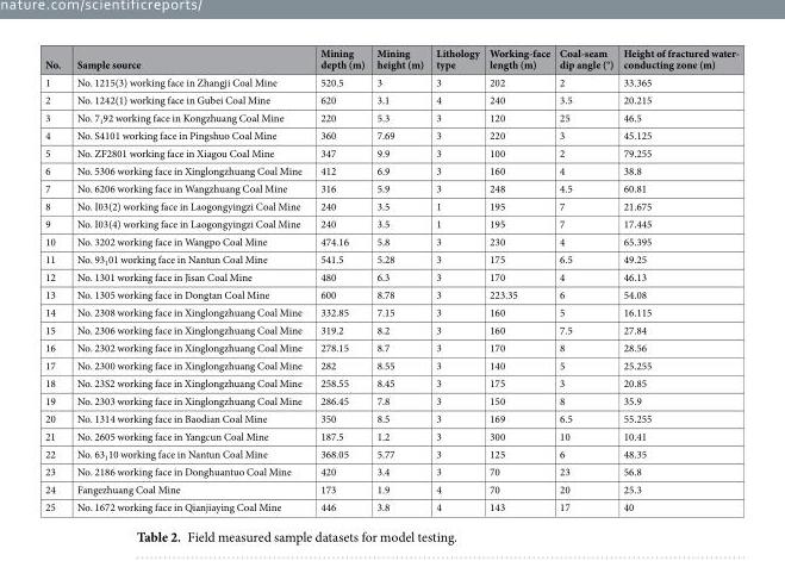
<table><thead><tr><td>No.</td><td>Sample source</td><td>Mining depth (m)</td><td>Mining height (m)</td><td>Lithology type</td><td>Working-face length (m)</td><td>Coal-seam dip angle (°)</td><td>Height of fractured water- conducting zone (m)</td></tr></thead><tbody><tr><td>1</td><td>No. 1215(3) working face in Zhangji Coal Mine</td><td>520.5</td><td>3</td><td>3</td><td>202</td><td>2</td><td>33.365</td></tr><tr><td>2</td><td>No. 1242(1) working face in Gubei Coal Mine</td><td>620</td><td>3.1</td><td>4</td><td>240</td><td>3.5</td><td>20.215</td></tr><tr><td>3</td><td>No. 7<sub>1</sub>92 working face in Kongzhuang Coal Mine</td><td>220</td><td>5.3</td><td>3</td><td>120</td><td>25</td><td>46.5</td></tr><tr><td>4</td><td>No. S4101 working face in Pingshuo Coal Mine</td><td>360</td><td>7.69</td><td>3</td><td>220</td><td>3</td><td>45.125</td></tr><tr><td>5</td><td>No. ZF2801 working face in Xiagou Coal Mine</td><td>347</td><td>9.9</td><td>3</td><td>100</td><td>2</td><td>79.255</td></tr><tr><td>6</td><td>No. 5306 working face in Xinglongzhuang Coal Mine</td><td>412</td><td>6.9</td><td>3</td><td>160</td><td>4</td><td>38.8</td></tr><tr><td>7</td><td>No. 6206 working face in Wangzhuang Coal Mine</td><td>316</td><td>5.9</td><td>3</td><td>248</td><td>4.5</td><td>60.81</td></tr><tr><td>8</td><td>No. I03(2) working face in Laogongyingzi Coal Mine</td><td>240</td><td>3.5</td><td>1</td><td>195</td><td>7</td><td>21.675</td></tr><tr><td>9</td><td>No. I03(4) working face in Laogongyingzi Coal Mine</td><td>240</td><td>3.5</td><td>1</td><td>195</td><td>7</td><td>17.445</td></tr><tr><td>10</td><td>No. 3202 working face in Wangpo Coal Mine</td><td>474.16</td><td>5.8</td><td>3</td><td>230</td><td>4</td><td>65.395</td></tr><tr><td>11</td><td>No. 93<sub>1</sub>01 working face in Nantun Coal Mine</td><td>541.5</td><td>5.28</td><td>3</td><td>175</td><td>6.5</td><td>49.25</td></tr><tr><td>12</td><td>No. 1301 working face in Jisan Coal Mine</td><td>480</td><td>6.3</td><td>3</td><td>170</td><td>4</td><td>46.13</td></tr><tr><td>13</td><td>No. 1305 working face in Dongtan Coal Mine</td><td>600</td><td>8.78</td><td>3</td><td>223.35</td><td>6</td><td>54.08</td></tr><tr><td>14</td><td>No. 2308 working face in Xinglongzhuang Coal Mine</td><td>332.85</td><td>7.15</td><td>3</td><td>160</td><td>5</td><td>16.115</td></tr><tr><td>15</td><td>No. 2306 working face in Xinglongzhuang Coal Mine</td><td>319.2</td><td>8.2</td><td>3</td><td>160</td><td>7.5</td><td>27.84</td></tr><tr><td>16</td><td>No. 2302 working face in Xinglongzhuang Coal Mine</td><td>278.15</td><td>8.7</td><td>3</td><td>170</td><td>8</td><td>28.56</td></tr><tr><td>17</td><td>No. 2300 working face in Xinglongzhuang Coal Mine</td><td>282</td><td>8.55</td><td>3</td><td>140</td><td>5</td><td>25.255</td></tr><tr><td>18</td><td>No. 23S2 working face in Xinglongzhuang Coal Mine</td><td>258.55</td><td>8.45</td><td>3</td><td>175</td><td>3</td><td>20.85</td></tr><tr><td>19</td><td>No. 2303 working face in Xinglongzhuang Coal Mine</td><td>286.45</td><td>7.8</td><td>3</td><td>150</td><td>8</td><td>35.9</td></tr><tr><td>20</td><td>No. 1314 working face in Baodian Coal Mine</td><td>350</td><td>8.5</td><td>3</td><td>169</td><td>6.5</td><td>55.255</td></tr><tr><td>21</td><td>No. 2605 working face in Yangcun Coal Mine</td><td>187.5</td><td>1.2</td><td>3</td><td>300</td><td>10</td><td>10.41</td></tr><tr><td>22</td><td>No. 63<sub>1</sub>10 working face in Nantun Coal Mine</td><td>368.05</td><td>5.77</td><td>3</td><td>125</td><td>6</td><td>48.35</td></tr><tr><td>23</td><td>No. 2186 working face in Donghuantuo Coal Mine</td><td>420</td><td>3.4</td><td>3</td><td>70</td><td>23</td><td>56.8</td></tr><tr><td>24</td><td>Fangezhuang Coal Mine</td><td>173</td><td>1.9</td><td>4</td><td>70</td><td>20</td><td>25.3</td></tr><tr><td>25</td><td>No. 1672 working face in Qianjiaying Coal Mine</td><td>446</td><td>3.8</td><td>4</td><td>143</td><td>17</td><td>40</td></tr></tbody></table>